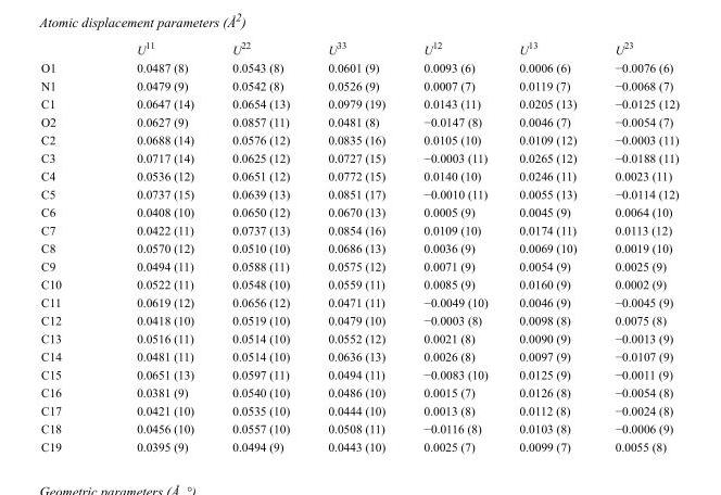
<table><thead><tr><td></td><td>U<sup>11</sup></td><td>U<sup>22</sup></td><td>U<sup>33</sup></td><td>U<sup>12</sup></td><td>U<sup>13</sup></td><td>U<sup>23</sup></td></tr></thead><tbody><tr><td>O1</td><td>0.0487 (8)</td><td>0.0543 (8)</td><td>0.0601 (9)</td><td>0.0093 (6)</td><td>0.0006 (6)</td><td>−0.0076 (6)</td></tr><tr><td>N1</td><td>0.0479 (9)</td><td>0.0542 (8)</td><td>0.0526 (9)</td><td>0.0007 (7)</td><td>0.0119 (7)</td><td>−0.0068 (7)</td></tr><tr><td>C1</td><td>0.0647 (14)</td><td>0.0654 (13)</td><td>0.0979 (19)</td><td>0.0143 (11)</td><td>0.0205 (13)</td><td>−0.0125 (12)</td></tr><tr><td>O2</td><td>0.0627 (9)</td><td>0.0857 (11)</td><td>0.0481 (8)</td><td>−0.0147 (8)</td><td>0.0046 (7)</td><td>−0.0054 (7)</td></tr><tr><td>C2</td><td>0.0688 (14)</td><td>0.0576 (12)</td><td>0.0835 (16)</td><td>0.0105 (10)</td><td>0.0109 (12)</td><td>−0.0003 (11)</td></tr><tr><td>C3</td><td>0.0717 (14)</td><td>0.0625 (12)</td><td>0.0727 (15)</td><td>−0.0003 (11)</td><td>0.0265 (12)</td><td>−0.0188 (11)</td></tr><tr><td>C4</td><td>0.0536 (12)</td><td>0.0651 (12)</td><td>0.0772 (15)</td><td>0.0140 (10)</td><td>0.0246 (11)</td><td>0.0023 (11)</td></tr><tr><td>C5</td><td>0.0737 (15)</td><td>0.0639 (13)</td><td>0.0851 (17)</td><td>−0.0010 (11)</td><td>0.0055 (13)</td><td>−0.0114 (12)</td></tr><tr><td>C6</td><td>0.0408 (10)</td><td>0.0650 (12)</td><td>0.0670 (13)</td><td>0.0005 (9)</td><td>0.0045 (9)</td><td>0.0064 (10)</td></tr><tr><td>C7</td><td>0.0422 (11)</td><td>0.0737 (13)</td><td>0.0854 (16)</td><td>0.0109 (10)</td><td>0.0174 (11)</td><td>0.0113 (12)</td></tr><tr><td>C8</td><td>0.0570 (12)</td><td>0.0510 (10)</td><td>0.0686 (13)</td><td>0.0036 (9)</td><td>0.0069 (10)</td><td>0.0019 (10)</td></tr><tr><td>C9</td><td>0.0494 (11)</td><td>0.0588 (11)</td><td>0.0575 (12)</td><td>0.0071 (9)</td><td>0.0054 (9)</td><td>0.0025 (9)</td></tr><tr><td>C10</td><td>0.0522 (11)</td><td>0.0548 (10)</td><td>0.0559 (11)</td><td>0.0085 (9)</td><td>0.0160 (9)</td><td>0.0002 (9)</td></tr><tr><td>C11</td><td>0.0619 (12)</td><td>0.0656 (12)</td><td>0.0471 (11)</td><td>−0.0049 (10)</td><td>0.0046 (9)</td><td>−0.0045 (9)</td></tr><tr><td>C12</td><td>0.0418 (10)</td><td>0.0519 (10)</td><td>0.0479 (10)</td><td>−0.0003 (8)</td><td>0.0098 (8)</td><td>0.0075 (8)</td></tr><tr><td>C13</td><td>0.0516 (11)</td><td>0.0514 (10)</td><td>0.0552 (12)</td><td>0.0021 (8)</td><td>0.0090 (9)</td><td>−0.0013 (9)</td></tr><tr><td>C14</td><td>0.0481 (11)</td><td>0.0514 (10)</td><td>0.0636 (13)</td><td>0.0026 (8)</td><td>0.0097 (9)</td><td>−0.0107 (9)</td></tr><tr><td>C15</td><td>0.0651 (13)</td><td>0.0597 (11)</td><td>0.0494 (11)</td><td>−0.0083 (10)</td><td>0.0125 (9)</td><td>−0.0011 (9)</td></tr><tr><td>C16</td><td>0.0381 (9)</td><td>0.0540 (10)</td><td>0.0486 (10)</td><td>0.0015 (7)</td><td>0.0126 (8)</td><td>−0.0054 (8)</td></tr><tr><td>C17</td><td>0.0421 (10)</td><td>0.0535 (10)</td><td>0.0444 (10)</td><td>0.0013 (8)</td><td>0.0112 (8)</td><td>−0.0024 (8)</td></tr><tr><td>C18</td><td>0.0456 (10)</td><td>0.0557 (10)</td><td>0.0508 (11)</td><td>−0.0116 (8)</td><td>0.0103 (8)</td><td>−0.0006 (9)</td></tr><tr><td>C19</td><td>0.0395 (9)</td><td>0.0494 (9)</td><td>0.0443 (10)</td><td>0.0025 (7)</td><td>0.0099 (7)</td><td>0.0055 (8)</td></tr></tbody></table>